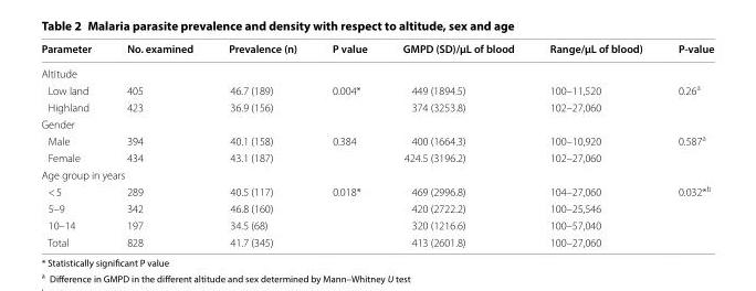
<table><thead><tr><td>Parameter</td><td>No. examined</td><td>Prevalence (n)</td><td>P value</td><td>GMPD (SD)/µL of blood</td><td>Range/µL of blood)</td><td>P-value</td></tr></thead><tbody><tr><td colspan="7">Altitude</td></tr><tr><td>Low land</td><td>405</td><td>46.7 (189)</td><td rowspan="2">0.004*</td><td>449 (1894.5)</td><td>100–11,520</td><td rowspan="2">0.26<sup>a</sup></td></tr><tr><td>Highland</td><td>423</td><td>36.9 (156)</td><td>374 (3253.8)</td><td>102–27,060</td></tr><tr><td colspan="7">Gender</td></tr><tr><td>Male</td><td>394</td><td>40.1 (158)</td><td rowspan="2">0.384</td><td>400 (1664.3)</td><td>100–10,920</td><td rowspan="2">0.587<sup>a</sup></td></tr><tr><td>Female</td><td>434</td><td>43.1 (187)</td><td>424.5 (3196.2)</td><td>102–27,060</td></tr><tr><td colspan="7">Age group in years</td></tr><tr><td>&lt; 5</td><td>289</td><td>40.5 (117)</td><td rowspan="4">0.018*</td><td>469 (2996.8)</td><td>104–27,060</td><td rowspan="4">0.032*<sup>b</sup></td></tr><tr><td>5–9</td><td>342</td><td>46.8 (160)</td><td>420 (2722.2)</td><td>100–25,546</td></tr><tr><td>10–14</td><td>197</td><td>34.5 (68)</td><td>320 (1216.6)</td><td>100–57,040</td></tr><tr><td>Total</td><td>828</td><td>41.7 (345)</td><td>413 (2601.8)</td><td>100–27,060</td></tr></tbody></table>